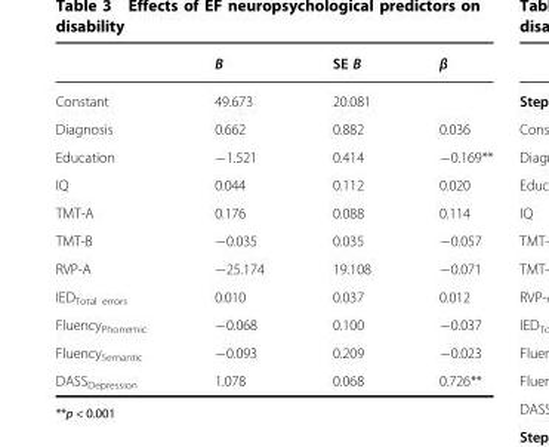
<table><thead><tr><td></td><td>B</td><td>SE B</td><td>β</td></tr></thead><tbody><tr><td>Constant</td><td>49.673</td><td>20.081</td><td></td></tr><tr><td>Diagnosis</td><td>0.662</td><td>0.882</td><td>0.036</td></tr><tr><td>Education</td><td>−1.521</td><td>0.414</td><td>−0.169**</td></tr><tr><td>IQ</td><td>0.044</td><td>0.112</td><td>0.020</td></tr><tr><td>TMT-A</td><td>0.176</td><td>0.088</td><td>0.114</td></tr><tr><td>TMT-B</td><td>−0.035</td><td>0.035</td><td>−0.057</td></tr><tr><td>RVP-A</td><td>−25.174</td><td>19.108</td><td>−0.071</td></tr><tr><td>IED<sub>Total errors</sub></td><td>0.010</td><td>0.037</td><td>0.012</td></tr><tr><td>Fluency<sub>Phonemic</sub></td><td>−0.068</td><td>0.100</td><td>−0.037</td></tr><tr><td>Fluency<sub>Semantic</sub></td><td>−0.093</td><td>0.209</td><td>−0.023</td></tr><tr><td>DASS<sub>Depression</sub></td><td>1.078</td><td>0.068</td><td>0.726**</td></tr></tbody></table>